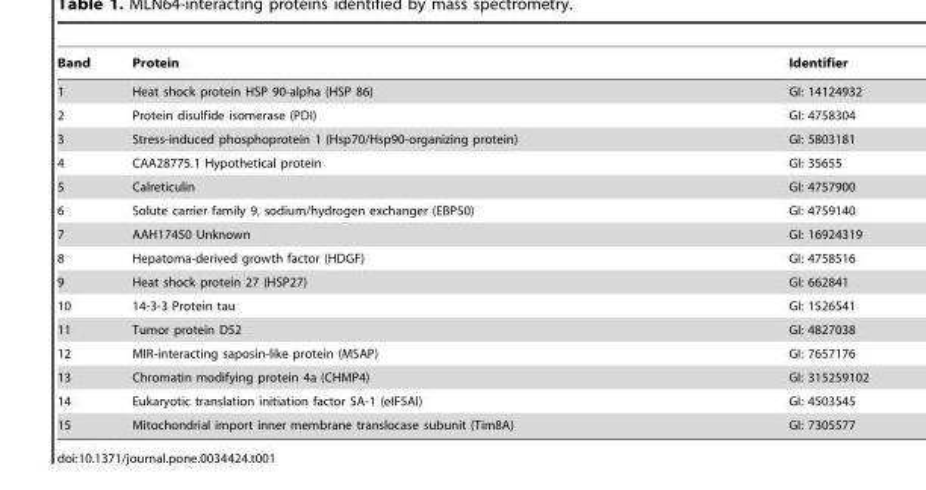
<table><thead><tr><td>Band</td><td>Protein</td><td>Identifier</td></tr></thead><tbody><tr><td>1</td><td>Heat shock protein HSP 90-alpha (HSP 86)</td><td>GI: 14124932</td></tr><tr><td>2</td><td>Protein disulfide isomerase (PDI)</td><td>GI: 4758304</td></tr><tr><td>3</td><td>Stress-induced phosphoprotein 1 (Hsp70/Hsp90-organizing protein)</td><td>GI: 5803181</td></tr><tr><td>4</td><td>CAA28775.1 Hypothetical protein</td><td>GI: 35655</td></tr><tr><td>5</td><td>Calreticulin</td><td>GI: 4757900</td></tr><tr><td>6</td><td>Solute carrier family 9, sodium/hydrogen exchanger (EBP50)</td><td>GI: 4759140</td></tr><tr><td>7</td><td>AAH17450 Unknown</td><td>GI: 16924319</td></tr><tr><td>8</td><td>Hepatoma-derived growth factor (HDGF)</td><td>GI: 4758516</td></tr><tr><td>9</td><td>Heat shock protein 27 (HSP27)</td><td>GI: 662841</td></tr><tr><td>10</td><td>14-3-3 Protein tau</td><td>GI: 1526541</td></tr><tr><td>11</td><td>Tumor protein D52</td><td>GI: 4827038</td></tr><tr><td>12</td><td>MIR-interacting saposin-like protein (MSAP)</td><td>GI: 7657176</td></tr><tr><td>13</td><td>Chromatin modifying protein 4a (CHMP4)</td><td>GI: 315259102</td></tr><tr><td>14</td><td>Eukaryotic translation initiation factor 5A-1 (eIF5AI)</td><td>GI: 4503545</td></tr><tr><td>15</td><td>Mitochondrial import inner membrane translocase subunit (Tim8A)</td><td>GI: 7305577</td></tr></tbody></table>